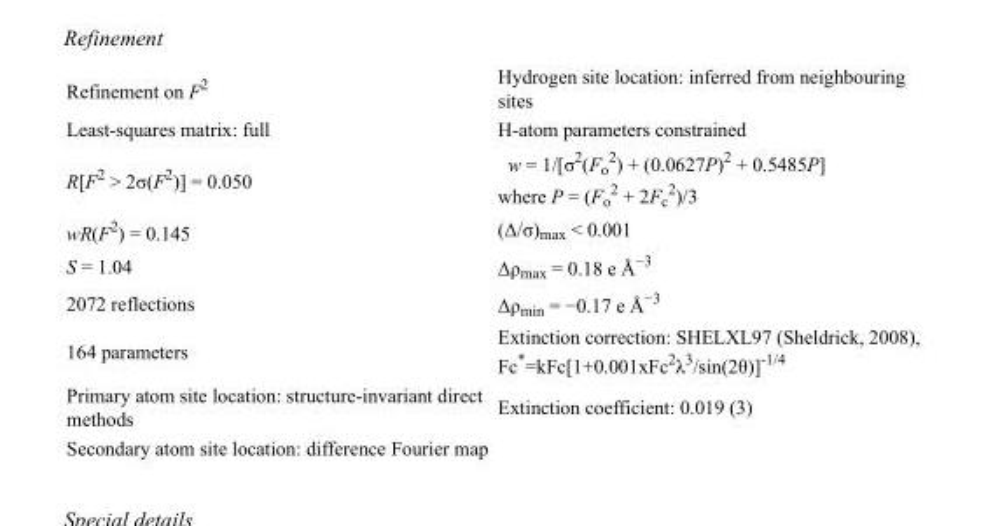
<table><tbody><tr><td>Refinement on F<sup>2</sup></td><td>Hydrogen site location: inferred from neighbouring sites</td></tr><tr><td>Least-squares matrix: full</td><td>H-atom parameters constrained</td></tr><tr><td>R[F<sup>2</sup> &gt; 2σ(F<sup>2</sup>)] = 0.050</td><td>w = 1/[σ<sup>2</sup>(F<sub>o</sub> <sup>2</sup>) + (0.0627P)<sup>2</sup> + 0.5485P] where P = (F<sub>o</sub> <sup>2</sup> + 2F<sub>c</sub> <sup>2</sup>)/3</td></tr><tr><td>wR(F<sup>2</sup>) = 0.145</td><td>(Δ/σ)<sub>max</sub> &lt; 0.001</td></tr><tr><td>S = 1.04</td><td>Δρ<sub>max</sub> = 0.18 e Å<sup>−3</sup></td></tr><tr><td>2072 reflections</td><td>Δρ<sub>min</sub> = −0.17 e Å<sup>−3</sup></td></tr><tr><td>164 parameters</td><td>Extinction correction: SHELXL97 (Sheldrick, 2008), Fc*=kFc[1+0.001xFc<sup>2</sup>λ<sup>3</sup>/sin(2θ)]<sup>-1/4</sup></td></tr><tr><td>Primary atom site location: structure-invariant direct methods</td><td>Extinction coefficient: 0.019 (3)</td></tr><tr><td>Secondary atom site location: difference Fourier map</td><td></td></tr></tbody></table>